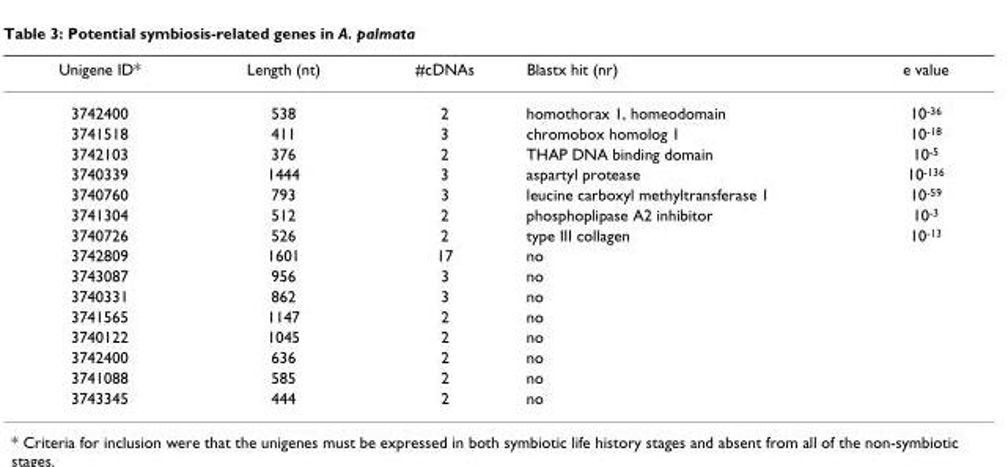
<table><thead><tr><td>Unigene ID*</td><td>Length (nt)</td><td>#cDNAs</td><td>Blastx hit (nr)</td><td>e value</td></tr></thead><tbody><tr><td>3742400</td><td>538</td><td>2</td><td>homothorax 1, homeodomain</td><td>10<sup>-36</sup></td></tr><tr><td>3741518</td><td>411</td><td>3</td><td>chromobox homolog 1</td><td>10<sup>-18</sup></td></tr><tr><td>3742103</td><td>376</td><td>2</td><td>THAP DNA binding domain</td><td>10<sup>-5</sup></td></tr><tr><td>3740339</td><td>1444</td><td>3</td><td>aspartyl protease</td><td>10<sup>-136</sup></td></tr><tr><td>3740760</td><td>793</td><td>3</td><td>leucine carboxyl methyltransferase 1</td><td>10<sup>-59</sup></td></tr><tr><td>3741304</td><td>512</td><td>2</td><td>phosphoplipase A2 inhibitor</td><td>10<sup>-3</sup></td></tr><tr><td>3740726</td><td>526</td><td>2</td><td>type III collagen</td><td>10<sup>-13</sup></td></tr><tr><td>3742809</td><td>1601</td><td>17</td><td>no</td><td></td></tr><tr><td>3743087</td><td>956</td><td>3</td><td>no</td><td></td></tr><tr><td>3740331</td><td>862</td><td>3</td><td>no</td><td></td></tr><tr><td>3741565</td><td>1147</td><td>2</td><td>no</td><td></td></tr><tr><td>3740122</td><td>1045</td><td>2</td><td>no</td><td></td></tr><tr><td>3742400</td><td>636</td><td>2</td><td>no</td><td></td></tr><tr><td>3741088</td><td>585</td><td>2</td><td>no</td><td></td></tr><tr><td>3743345</td><td>444</td><td>2</td><td>no</td><td></td></tr></tbody></table>